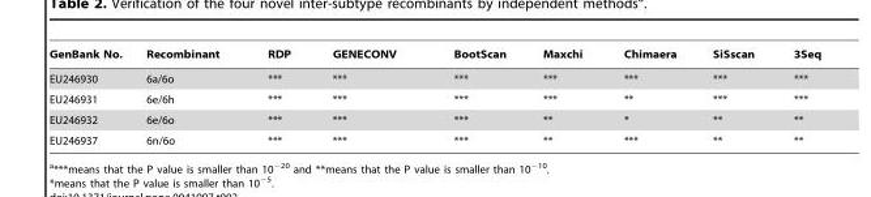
<table><thead><tr><td>GenBank No.</td><td>Recombinant</td><td>RDP</td><td>GENECONV</td><td>BootScan</td><td>Maxchi</td><td>Chimaera</td><td>SiSscan</td><td>3Seq</td></tr></thead><tbody><tr><td>EU246930</td><td>6a/6o</td><td>***</td><td>***</td><td>***</td><td>***</td><td>***</td><td>***</td><td>***</td></tr><tr><td>EU246931</td><td>6e/6h</td><td>***</td><td>***</td><td>***</td><td>***</td><td>**</td><td>***</td><td>***</td></tr><tr><td>EU246932</td><td>6e/6o</td><td>***</td><td>***</td><td>***</td><td>**</td><td>*</td><td>**</td><td>**</td></tr><tr><td>EU246937</td><td>6n/6o</td><td>***</td><td>***</td><td>***</td><td>**</td><td>***</td><td>**</td><td>**</td></tr></tbody></table>